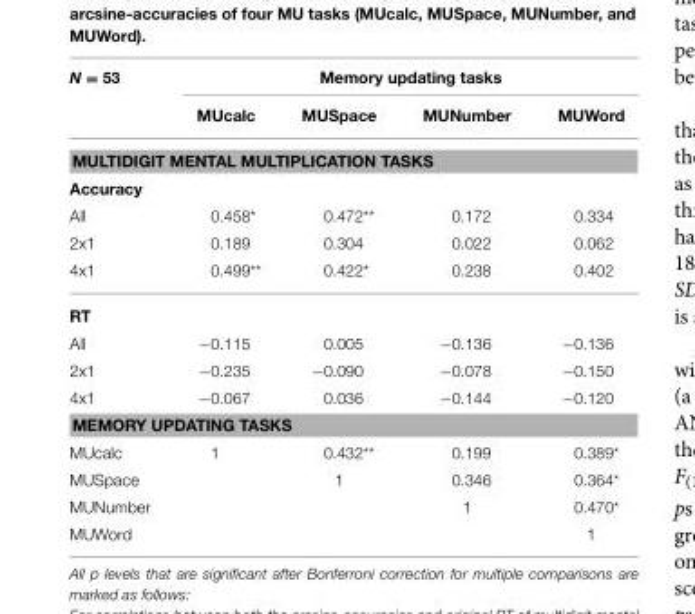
<table><thead><tr><td rowspan="2">N = 53</td><td colspan="4">Memory updating tasks</td></tr><tr><td>MUcalc</td><td>MUSpace</td><td>MUNumber</td><td>MUWord</td></tr></thead><tbody><tr><td colspan="5">MULTIDIGIT MENTAL MULTIPLICATION TASKS</td></tr><tr><td colspan="5">Accuracy</td></tr><tr><td>All</td><td>0.458*</td><td>0.472**</td><td>0.172</td><td>0.334</td></tr><tr><td>2x1</td><td>0.189</td><td>0.304</td><td>0.022</td><td>0.062</td></tr><tr><td>4x1</td><td>0.499**</td><td>0.422*</td><td>0.238</td><td>0.402</td></tr><tr><td colspan="5">RT</td></tr><tr><td>All</td><td>−0.115</td><td>0.005</td><td>−0.136</td><td>−0.136</td></tr><tr><td>2x1</td><td>−0.235</td><td>−0.090</td><td>−0.078</td><td>−0.150</td></tr><tr><td>4x1</td><td>−0.067</td><td>0.036</td><td>−0.144</td><td>−0.120</td></tr><tr><td colspan="5">MEMORY UPDATING TASKS</td></tr><tr><td>MUcalc</td><td>1</td><td>0.432**</td><td>0.199</td><td>0.389*</td></tr><tr><td>MUSpace</td><td></td><td>1</td><td>0.346</td><td>0.364*</td></tr><tr><td>MUNumber</td><td></td><td></td><td>1</td><td>0.470*</td></tr><tr><td>MUWord</td><td></td><td></td><td></td><td>1</td></tr></tbody></table>